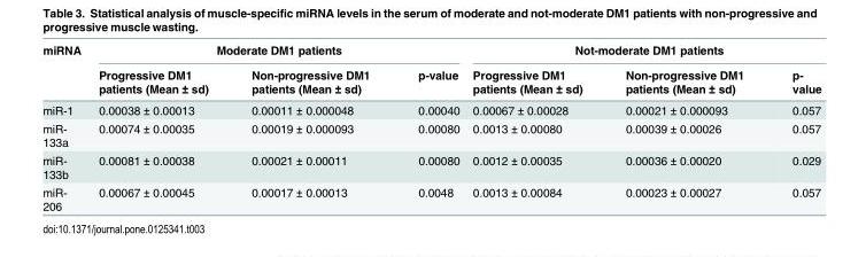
<table><thead><tr><td rowspan="2">miRNA</td><td colspan="3">Moderate DM1 patients</td><td colspan="3">Not-moderate DM1 patients</td></tr><tr><td>Progressive DM1 patients (Mean ± sd)</td><td>Non-progressive DM1 patients (Mean ± sd)</td><td>p-value</td><td>Progressive DM1 patients (Mean ± sd)</td><td>Non-progressive DM1 patients (Mean ± sd)</td><td>p- value</td></tr></thead><tbody><tr><td>miR-1</td><td>0.00038 ± 0.00013</td><td>0.00011 ± 0.000048</td><td>0.00040</td><td>0.00067 ± 0.00028</td><td>0.00021 ± 0.000093</td><td>0.057</td></tr><tr><td>miR- 133a</td><td>0.00074 ± 0.00035</td><td>0.00019 ± 0.000093</td><td>0.00080</td><td>0.0013 ± 0.00080</td><td>0.00039 ± 0.00026</td><td>0.057</td></tr><tr><td>miR- 133b</td><td>0.00081 ± 0.00038</td><td>0.00021 ± 0.00011</td><td>0.00080</td><td>0.0012 ± 0.00035</td><td>0.00036 ± 0.00020</td><td>0.029</td></tr><tr><td>miR- 206</td><td>0.00067 ± 0.00045</td><td>0.00017 ± 0.00013</td><td>0.0048</td><td>0.0013 ± 0.00084</td><td>0.00023 ± 0.00027</td><td>0.057</td></tr></tbody></table>